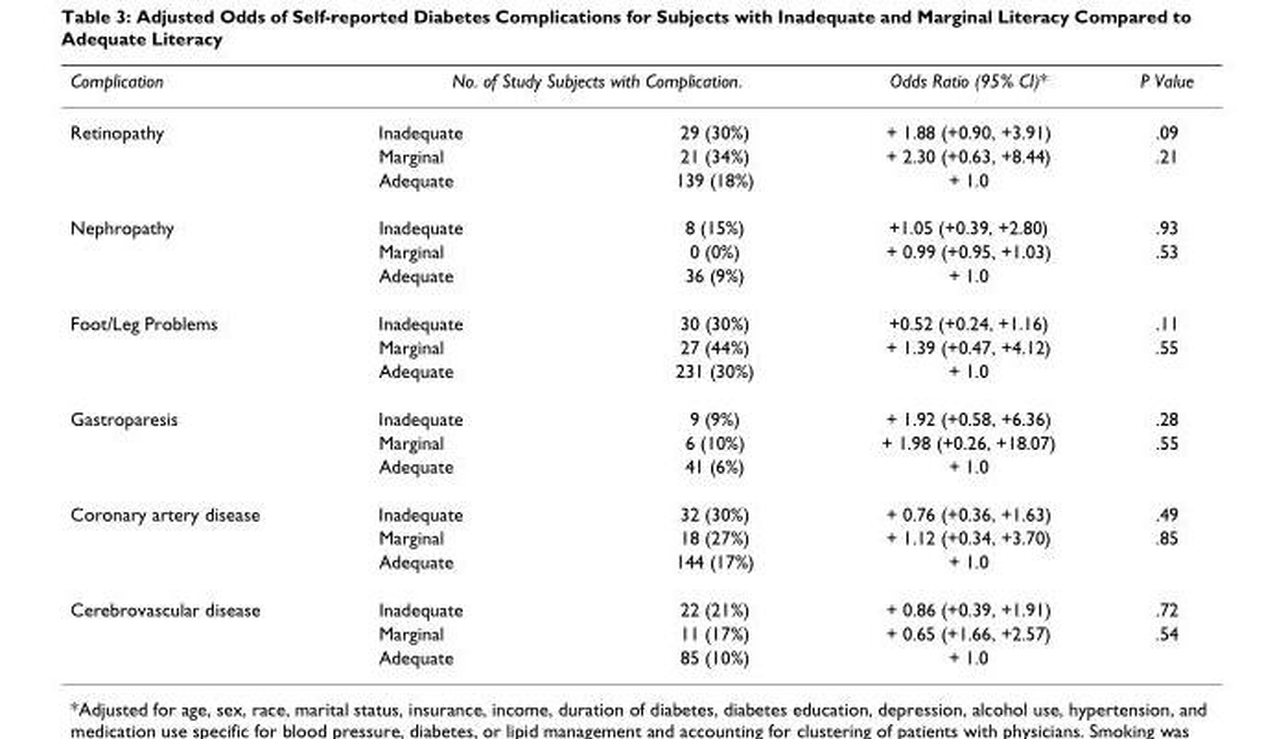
<table><thead><tr><td rowspan="2">Complication Retinopathy</td><td colspan="2">No. of Study Subjects with Complication.</td><td rowspan="2">Odds Ratio (95% CI)* + 1.88 (+0.90, +3.91)</td><td rowspan="2">P Value .09</td></tr><tr><td>Inadequate</td><td>29 (30%)</td></tr></thead><tbody><tr><td></td><td>Marginal</td><td>21 (34%)</td><td>+ 2.30 (+0.63, +8.44)</td><td>.21</td></tr><tr><td></td><td>Adequate</td><td>139 (18%)</td><td>+ 1.0</td><td></td></tr><tr><td rowspan="3">Nephropathy</td><td>Inadequate</td><td>8 (15%)</td><td>+1.05 (+0.39, +2.80)</td><td>.93</td></tr><tr><td>Marginal</td><td>0 (0%)</td><td>+ 0.99 (+0.95, +1.03)</td><td>.53</td></tr><tr><td>Adequate</td><td>36 (9%)</td><td>+ 1.0</td><td></td></tr><tr><td rowspan="3">Foot/Leg Problems</td><td>Inadequate</td><td>30 (30%)</td><td>+0.52 (+0.24, +1.16)</td><td>.11</td></tr><tr><td>Marginal</td><td>27 (44%)</td><td>+ 1.39 (+0.47, +4.12)</td><td>.55</td></tr><tr><td>Adequate</td><td>231 (30%)</td><td>+ 1.0</td><td></td></tr><tr><td rowspan="3">Gastroparesis</td><td>Inadequate</td><td>9 (9%)</td><td>+ 1.92 (+0.58, +6.36)</td><td>.28</td></tr><tr><td>Marginal</td><td>6 (10%)</td><td>+ 1.98 (+0.26, +18.07)</td><td>.55</td></tr><tr><td>Adequate</td><td>41 (6%)</td><td>+ 1.0</td><td></td></tr><tr><td rowspan="3">Coronary artery disease</td><td>Inadequate</td><td>32 (30%)</td><td>+ 0.76 (+0.36, +1.63)</td><td>.49</td></tr><tr><td>Marginal</td><td>18 (27%)</td><td>+ 1.12 (+0.34, +3.70)</td><td>.85</td></tr><tr><td>Adequate</td><td>144 (17%)</td><td>+ 1.0</td><td></td></tr><tr><td rowspan="3">Cerebrovascular disease</td><td>Inadequate</td><td>22 (21%)</td><td>+ 0.86 (+0.39, +1.91)</td><td>.72</td></tr><tr><td>Marginal</td><td>11 (17%)</td><td>+ 0.65 (+1.66, +2.57)</td><td>.54</td></tr><tr><td>Adequate</td><td>85 (10%)</td><td>+ 1.0</td><td></td></tr></tbody></table>